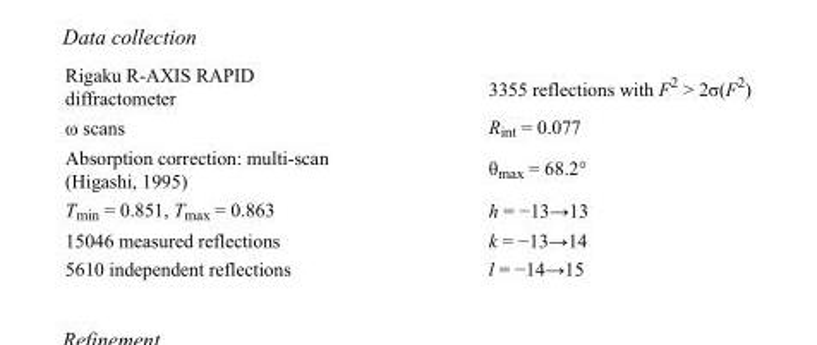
<table><tbody><tr><td>Rigaku R-AXIS RAPID diffractometer</td><td>3355 reflections with F<sup>2</sup> &gt; 2σ(F<sup>2</sup>)</td></tr><tr><td>ω scans</td><td>R<sub>int</sub> = 0.077</td></tr><tr><td>Absorption correction: multi-scan (Higashi, 1995)</td><td>θ<sub>max</sub> = 68.2°</td></tr><tr><td>T<sub>min</sub> = 0.851, T<sub>max</sub> = 0.863</td><td>h = −13→13</td></tr><tr><td>15046 measured reflections</td><td>k = −13→14</td></tr><tr><td>5610 independent reflections</td><td>l = −14→15</td></tr></tbody></table>